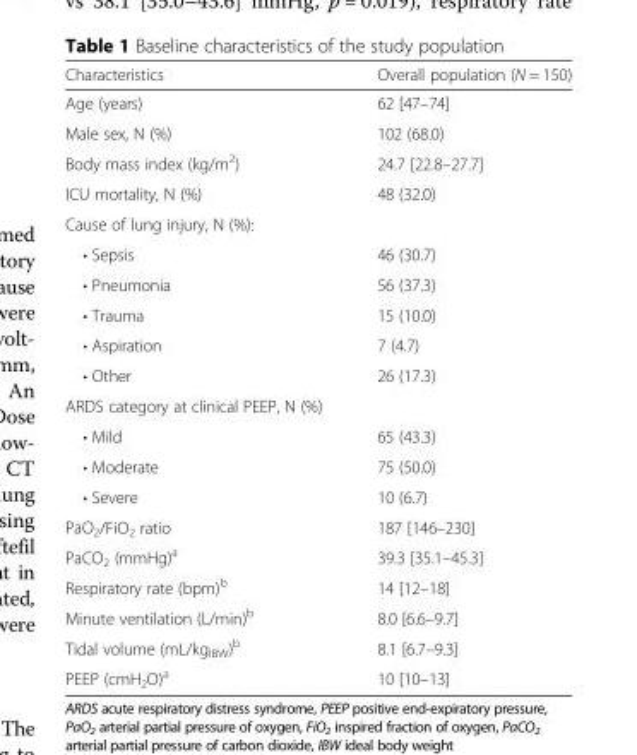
<table><thead><tr><td>Characteristics</td><td>Overall population (N = 150)</td></tr></thead><tbody><tr><td>Age (years)</td><td>62 [47–74]</td></tr><tr><td>Male sex, N (%)</td><td>102 (68.0)</td></tr><tr><td>Body mass index (kg/m<sup>2</sup>)</td><td>24.7 [22.8–27.7]</td></tr><tr><td>ICU mortality, N (%)</td><td>48 (32.0)</td></tr><tr><td colspan="2">Cause of lung injury, N (%):</td></tr><tr><td>• Sepsis</td><td>46 (30.7)</td></tr><tr><td>• Pneumonia</td><td>56 (37.3)</td></tr><tr><td>• Trauma</td><td>15 (10.0)</td></tr><tr><td>• Aspiration</td><td>7 (4.7)</td></tr><tr><td>• Other</td><td>26 (17.3)</td></tr><tr><td colspan="2">ARDS category at clinical PEEP, N (%)</td></tr><tr><td>• Mild</td><td>65 (43.3)</td></tr><tr><td>• Moderate</td><td>75 (50.0)</td></tr><tr><td>• Severe</td><td>10 (6.7)</td></tr><tr><td>PaO<sub>2</sub>/FiO<sub>2</sub> ratio</td><td>187 [146–230]</td></tr><tr><td>PaCO<sub>2</sub> (mmHg)<sup>a</sup></td><td>39.3 [35.1–45.3]</td></tr><tr><td>Respiratory rate (bpm)<sup>b</sup></td><td>14 [12–18]</td></tr><tr><td>Minute ventilation (L/min)<sup>b</sup></td><td>8.0 [6.6–9.7]</td></tr><tr><td>Tidal volume (mL/kg<sub>IBW</sub>)<sup>b</sup></td><td>8.1 [6.7–9.3]</td></tr><tr><td>PEEP (cmH<sub>2</sub>O)<sup>a</sup></td><td>10 [10–13]</td></tr></tbody></table>